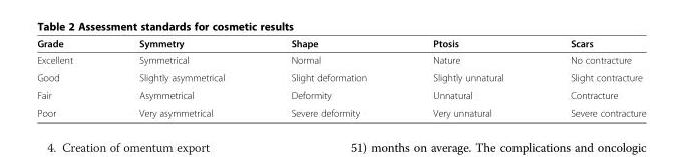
<table><thead><tr><td>Grade</td><td>Symmetry</td><td>Shape</td><td>Ptosis</td><td>Scars</td></tr></thead><tbody><tr><td>Excellent</td><td>Symmetrical</td><td>Normal</td><td>Nature</td><td>No contracture</td></tr><tr><td>Good</td><td>Slightly asymmetrical</td><td>Slight deformation</td><td>Slightly unnatural</td><td>Slight contracture</td></tr><tr><td>Fair</td><td>Asymmetrical</td><td>Deformity</td><td>Unnatural</td><td>Contracture</td></tr><tr><td>Poor</td><td>Very asymmetrical</td><td>Severe deformity</td><td>Very unnatural</td><td>Severe contracture</td></tr></tbody></table>